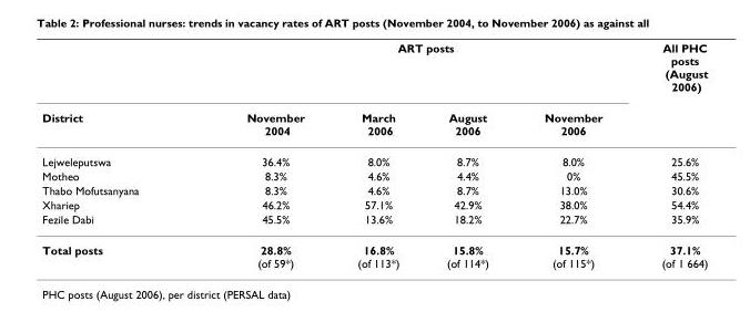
<table><thead><tr><td rowspan="2">District</td><td colspan="4">ART posts</td><td rowspan="2">All PHC posts (August 2006)</td></tr><tr><td>November 2004</td><td>March 2006</td><td>August 2006</td><td>November 2006</td></tr></thead><tbody><tr><td>Lejweleputswa</td><td>36.4%</td><td>8.0%</td><td>8.7%</td><td>8.0%</td><td>25.6%</td></tr><tr><td>Motheo</td><td>8.3%</td><td>4.6%</td><td>4.4%</td><td>0%</td><td>45.5%</td></tr><tr><td>Thabo Mofutsanyana</td><td>8.3%</td><td>4.6%</td><td>8.7%</td><td>13.0%</td><td>30.6%</td></tr><tr><td>Xhariep</td><td>46.2%</td><td>57.1%</td><td>42.9%</td><td>38.0%</td><td>54.4%</td></tr><tr><td>Fezile Dabi</td><td>45.5%</td><td>13.6%</td><td>18.2%</td><td>22.7%</td><td>35.9%</td></tr><tr><td>Total posts</td><td>28.8% (of 59*)</td><td>16.8% (of 113*)</td><td>15.8% (of 114*)</td><td>15.7% (of 115*)</td><td>37.1% (of 1 664)</td></tr></tbody></table>